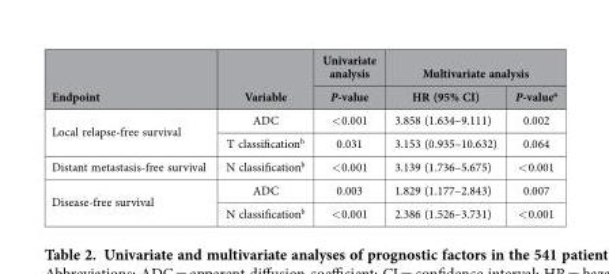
<table><thead><tr><td rowspan="2">Endpoint</td><td rowspan="2">Variable</td><td rowspan="2">Univariate analysis P-value</td><td colspan="2">Multivariate analysis</td></tr><tr><td>HR (95% CI)</td><td>P-value<sup>a</sup></td></tr></thead><tbody><tr><td rowspan="2">Local relapse-free survival</td><td>ADC</td><td>&lt; 0.001</td><td>3.858 (1.634–9.111)</td><td>0.002</td></tr><tr><td>T classification<sup>b</sup></td><td>0.031</td><td>3.153 (0.935–10.632)</td><td>0.064</td></tr><tr><td>Distant metastasis-free survival</td><td>N classification<sup>b</sup></td><td>&lt; 0.001</td><td>3.139 (1.736–5.675)</td><td>&lt; 0.001</td></tr><tr><td rowspan="2">Disease-free survival</td><td>ADC</td><td>0.003</td><td>1.829 (1.177–2.843)</td><td>0.007</td></tr><tr><td>N classification<sup>b</sup></td><td>&lt; 0.001</td><td>2.386 (1.526–3.731)</td><td>&lt; 0.001</td></tr></tbody></table>